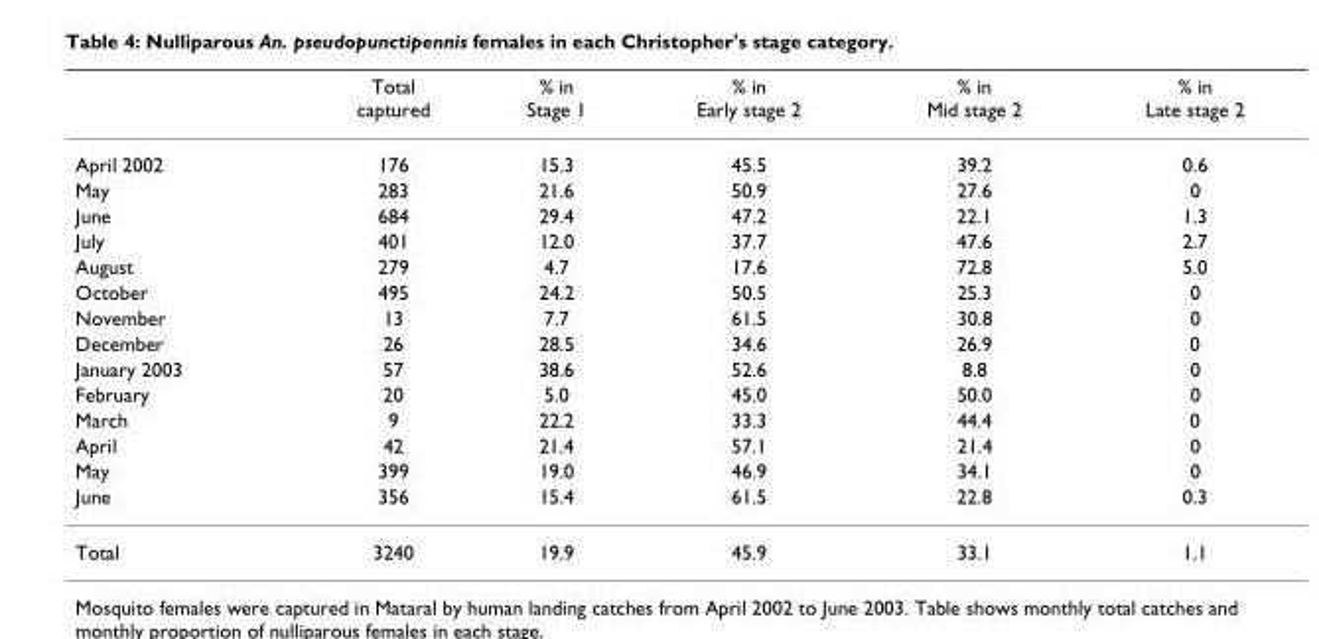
<table><thead><tr><td></td><td>Total captured</td><td>% in Stage 1</td><td>% in Early stage 2</td><td>% in Mid stage 2</td><td>% in Late stage 2</td></tr></thead><tbody><tr><td>April 2002</td><td>176</td><td>15.3</td><td>45.5</td><td>39.2</td><td>0.6</td></tr><tr><td>May</td><td>283</td><td>21.6</td><td>50.9</td><td>27.6</td><td>0</td></tr><tr><td>June</td><td>684</td><td>29.4</td><td>47.2</td><td>22.1</td><td>1.3</td></tr><tr><td>July</td><td>401</td><td>12.0</td><td>37.7</td><td>47.6</td><td>2.7</td></tr><tr><td>August</td><td>279</td><td>4.7</td><td>17.6</td><td>72.8</td><td>5.0</td></tr><tr><td>October</td><td>495</td><td>24.2</td><td>50.5</td><td>25.3</td><td>0</td></tr><tr><td>November</td><td>13</td><td>7.7</td><td>61.5</td><td>30.8</td><td>0</td></tr><tr><td>December</td><td>26</td><td>28.5</td><td>34.6</td><td>26.9</td><td>0</td></tr><tr><td>January 2003</td><td>57</td><td>38.6</td><td>52.6</td><td>8.8</td><td>0</td></tr><tr><td>February</td><td>20</td><td>5.0</td><td>45.0</td><td>50.0</td><td>0</td></tr><tr><td>March</td><td>9</td><td>22.2</td><td>33.3</td><td>44.4</td><td>0</td></tr><tr><td>April</td><td>42</td><td>21.4</td><td>57.1</td><td>21.4</td><td>0</td></tr><tr><td>May</td><td>399</td><td>19.0</td><td>46.9</td><td>34.1</td><td>0</td></tr><tr><td>June</td><td>356</td><td>15.4</td><td>61.5</td><td>22.8</td><td>0.3</td></tr><tr><td>Total</td><td>3240</td><td>19.9</td><td>45.9</td><td>33.1</td><td>1.1</td></tr></tbody></table>